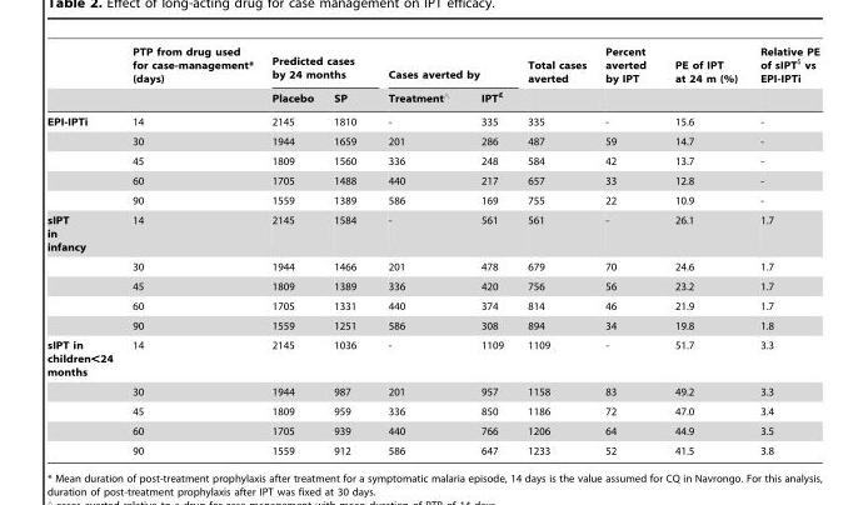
<table><thead><tr><td rowspan="2"></td><td rowspan="2">PTP from drug used for case-management* (days)</td><td colspan="2">Predicted cases by 24 months</td><td colspan="2">Cases averted by</td><td rowspan="2">Total cases averted</td><td rowspan="2">Percent averted by IPT</td><td rowspan="2">PE of IPT at 24 m (%)</td><td rowspan="2">Relative PE of sIPT$ vs EPI-IPTi</td></tr><tr><td>Placebo</td><td>SP</td><td>Treatment‘</td><td>IPT£</td></tr></thead><tbody><tr><td rowspan="5">EPI-IPTi</td><td>14</td><td>2145</td><td>1810</td><td>-</td><td>335</td><td>335</td><td>-</td><td>15.6</td><td>-</td></tr><tr><td>30</td><td>1944</td><td>1659</td><td>201</td><td>286</td><td>487</td><td>59</td><td>14.7</td><td>-</td></tr><tr><td>45</td><td>1809</td><td>1560</td><td>336</td><td>248</td><td>584</td><td>42</td><td>13.7</td><td>-</td></tr><tr><td>60</td><td>1705</td><td>1488</td><td>440</td><td>217</td><td>657</td><td>33</td><td>12.8</td><td>-</td></tr><tr><td>90</td><td>1559</td><td>1389</td><td>586</td><td>169</td><td>755</td><td>22</td><td>10.9</td><td>-</td></tr><tr><td rowspan="5">sIPT in infancy</td><td>14</td><td>2145</td><td>1584</td><td>-</td><td>561</td><td>561</td><td>-</td><td>26.1</td><td>1.7</td></tr><tr><td>30</td><td>1944</td><td>1466</td><td>201</td><td>478</td><td>679</td><td>70</td><td>24.6</td><td>1.7</td></tr><tr><td>45</td><td>1809</td><td>1389</td><td>336</td><td>420</td><td>756</td><td>56</td><td>23.2</td><td>1.7</td></tr><tr><td>60</td><td>1705</td><td>1331</td><td>440</td><td>374</td><td>814</td><td>46</td><td>21.9</td><td>1.7</td></tr><tr><td>90</td><td>1559</td><td>1251</td><td>586</td><td>308</td><td>894</td><td>34</td><td>19.8</td><td>1.8</td></tr><tr><td rowspan="5">sIPT in children&lt;24 months</td><td>14</td><td>2145</td><td>1036</td><td>-</td><td>1109</td><td>1109</td><td>-</td><td>51.7</td><td>3.3</td></tr><tr><td>30</td><td>1944</td><td>987</td><td>201</td><td>957</td><td>1158</td><td>83</td><td>49.2</td><td>3.3</td></tr><tr><td>45</td><td>1809</td><td>959</td><td>336</td><td>850</td><td>1186</td><td>72</td><td>47.0</td><td>3.4</td></tr><tr><td>60</td><td>1705</td><td>939</td><td>440</td><td>766</td><td>1206</td><td>64</td><td>44.9</td><td>3.5</td></tr><tr><td>90</td><td>1559</td><td>912</td><td>586</td><td>647</td><td>1233</td><td>52</td><td>41.5</td><td>3.8</td></tr></tbody></table>